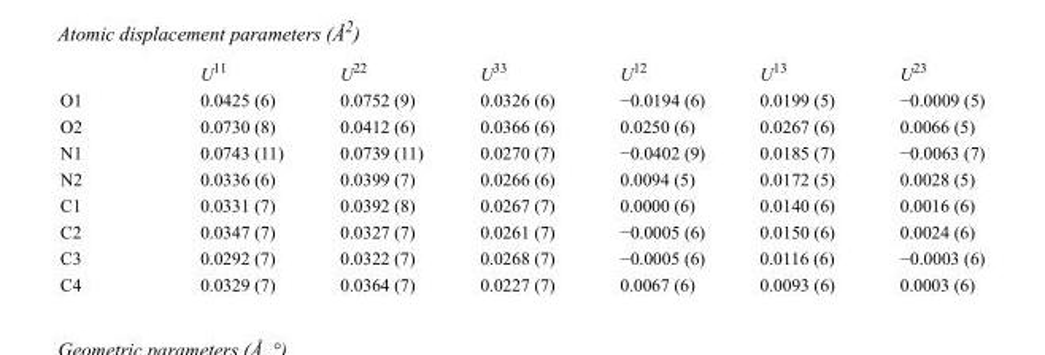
<table><thead><tr><td></td><td>U<sup>11</sup></td><td>U<sup>22</sup></td><td>U<sup>33</sup></td><td>U<sup>12</sup></td><td>U<sup>13</sup></td><td>U<sup>23</sup></td></tr></thead><tbody><tr><td>O1</td><td>0.0425 (6)</td><td>0.0752 (9)</td><td>0.0326 (6)</td><td>−0.0194 (6)</td><td>0.0199 (5)</td><td>−0.0009 (5)</td></tr><tr><td>O2</td><td>0.0730 (8)</td><td>0.0412 (6)</td><td>0.0366 (6)</td><td>0.0250 (6)</td><td>0.0267 (6)</td><td>0.0066 (5)</td></tr><tr><td>N1</td><td>0.0743 (11)</td><td>0.0739 (11)</td><td>0.0270 (7)</td><td>−0.0402 (9)</td><td>0.0185 (7)</td><td>−0.0063 (7)</td></tr><tr><td>N2</td><td>0.0336 (6)</td><td>0.0399 (7)</td><td>0.0266 (6)</td><td>0.0094 (5)</td><td>0.0172 (5)</td><td>0.0028 (5)</td></tr><tr><td>C1</td><td>0.0331 (7)</td><td>0.0392 (8)</td><td>0.0267 (7)</td><td>0.0000 (6)</td><td>0.0140 (6)</td><td>0.0016 (6)</td></tr><tr><td>C2</td><td>0.0347 (7)</td><td>0.0327 (7)</td><td>0.0261 (7)</td><td>−0.0005 (6)</td><td>0.0150 (6)</td><td>0.0024 (6)</td></tr><tr><td>C3</td><td>0.0292 (7)</td><td>0.0322 (7)</td><td>0.0268 (7)</td><td>−0.0005 (6)</td><td>0.0116 (6)</td><td>−0.0003 (6)</td></tr><tr><td>C4</td><td>0.0329 (7)</td><td>0.0364 (7)</td><td>0.0227 (7)</td><td>0.0067 (6)</td><td>0.0093 (6)</td><td>0.0003 (6)</td></tr></tbody></table>